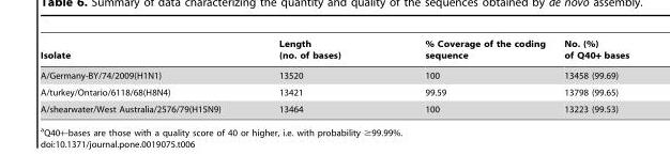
<table><thead><tr><td>Isolate</td><td>Length (no. of bases)</td><td>% Coverage of the coding sequence</td><td>No. (%) of Q40+ bases</td></tr></thead><tbody><tr><td>A/Germany-BY/74/2009(H1N1)</td><td>13520</td><td>100</td><td>13458 (99.69)</td></tr><tr><td>A/turkey/Ontario/6118/68(H8N4)</td><td>13421</td><td>99.59</td><td>13798 (99.65)</td></tr><tr><td>A/shearwater/West Australia/2576/79(H15N9)</td><td>13464</td><td>100</td><td>13223 (99.53)</td></tr></tbody></table>